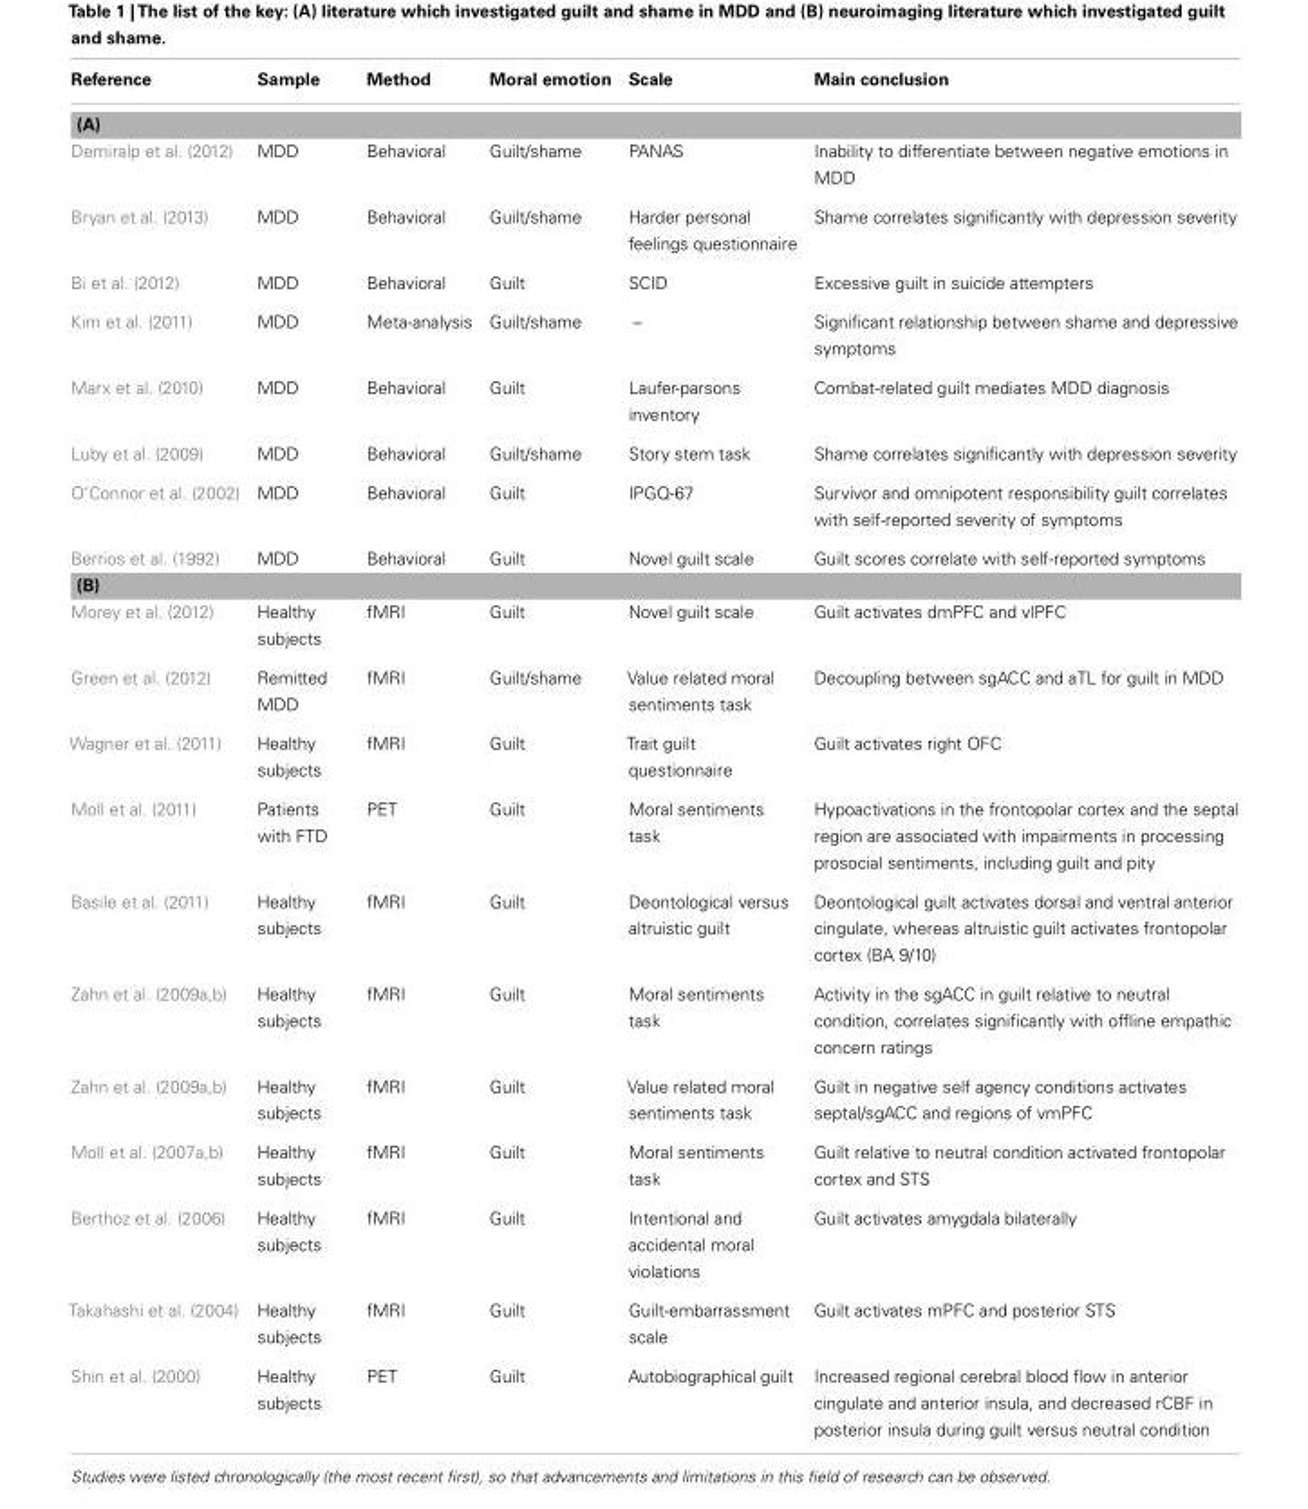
<table><thead><tr><td>Reference</td><td>Sample</td><td>Method</td><td>Moral emotion</td><td>Scale</td><td>Main conclusion</td></tr></thead><tbody><tr><td colspan="6">(A)</td></tr><tr><td>Demiralp et al. (2012)</td><td>MDD</td><td>Behavioral</td><td>Guilt/shame</td><td>PANAS</td><td>Inability to differentiate between negative emotions in MDD</td></tr><tr><td>Bryan et al. (2013)</td><td>MDD</td><td>Behavioral</td><td>Guilt/shame</td><td>Harder personal feelings questionnaire</td><td>Shame correlates significantly with depression severity</td></tr><tr><td>Bi et al. (2012)</td><td>MDD</td><td>Behavioral</td><td>Guilt</td><td>SCID</td><td>Excessive guilt in suicide attempters</td></tr><tr><td>Kim et al. (2011)</td><td>MDD</td><td>Meta-analysis</td><td>Guilt/shame</td><td>–</td><td>Significant relationship between shame and depressive symptoms</td></tr><tr><td>Marx et al. (2010)</td><td>MDD</td><td>Behavioral</td><td>Guilt</td><td>Laufer-parsons inventory</td><td>Combat-related guilt mediates MDD diagnosis</td></tr><tr><td>Luby et al. (2009)</td><td>MDD</td><td>Behavioral</td><td>Guilt/shame</td><td>Story stem task</td><td>Shame correlates significantly with depression severity</td></tr><tr><td>O’Connor et al. (2002)</td><td>MDD</td><td>Behavioral</td><td>Guilt</td><td>IPGQ-67</td><td>Survivor and omnipotent responsibility guilt correlates with self-reported severity of symptoms</td></tr><tr><td>Berrios et al. (1992)</td><td>MDD</td><td>Behavioral</td><td>Guilt</td><td>Novel guilt scale</td><td>Guilt scores correlate with self-reported symptoms</td></tr><tr><td colspan="6">(B)</td></tr><tr><td>Morey et al. (2012)</td><td>Healthy subjects</td><td>fMRI</td><td>Guilt</td><td>Novel guilt scale</td><td>Guilt activates dmPFC and vlPFC</td></tr><tr><td>Green et al. (2012)</td><td>Remitted MDD</td><td>fMRI</td><td>Guilt/shame</td><td>Value related moral sentiments task</td><td>Decoupling between sgACC and aTL for guilt in MDD</td></tr><tr><td>Wagner et al. (2011)</td><td>Healthy subjects</td><td>fMRI</td><td>Guilt</td><td>Trait guilt questionnaire</td><td>Guilt activates right OFC</td></tr><tr><td>Moll et al. (2011)</td><td>Patients with FTD</td><td>PET</td><td>Guilt</td><td>Moral sentiments task</td><td>Hypoactivations in the frontopolar cortex and the septal region are associated with impairments in processing prosocial sentiments, including guilt and pity</td></tr><tr><td>Basile et al. (2011)</td><td>Healthy subjects</td><td>fMRI</td><td>Guilt</td><td>Deontological versus altruistic guilt</td><td>Deontological guilt activates dorsal and ventral anterior cingulate, whereas altruistic guilt activates frontopolar cortex (BA 9/10)</td></tr><tr><td>Zahn et al. (2009a,b)</td><td>Healthy subjects</td><td>fMRI</td><td>Guilt</td><td>Moral sentiments task</td><td>Activity in the sgACC in guilt relative to neutral condition, correlates significantly with offline empathic concern ratings</td></tr><tr><td>Zahn et al. (2009a,b)</td><td>Healthy subjects</td><td>fMRI</td><td>Guilt</td><td>Value related moral sentiments task</td><td>Guilt in negative self agency conditions activates septal/sgACC and regions of vmPFC</td></tr><tr><td>Moll et al. (2007a,b)</td><td>Healthy subjects</td><td>fMRI</td><td>Guilt</td><td>Moral sentiments task</td><td>Guilt relative to neutral condition activated frontopolar cortex and STS</td></tr><tr><td>Berthoz et al. (2006)</td><td>Healthy subjects</td><td>fMRI</td><td>Guilt</td><td>Intentional and accidental moral violations</td><td>Guilt activates amygdala bilaterally</td></tr><tr><td>Takahashi et al. (2004)</td><td>Healthy subjects</td><td>fMRI</td><td>Guilt</td><td>Guilt-embarrassment scale</td><td>Guilt activates mPFC and posterior STS</td></tr><tr><td>Shin et al. (2000)</td><td>Healthy subjects</td><td>PET</td><td>Guilt</td><td>Autobiographical guilt</td><td>Increased regional cerebral blood flow in anterior cingulate and anterior insula, and decreased rCBF in posterior insula during guilt versus neutral condition</td></tr></tbody></table>